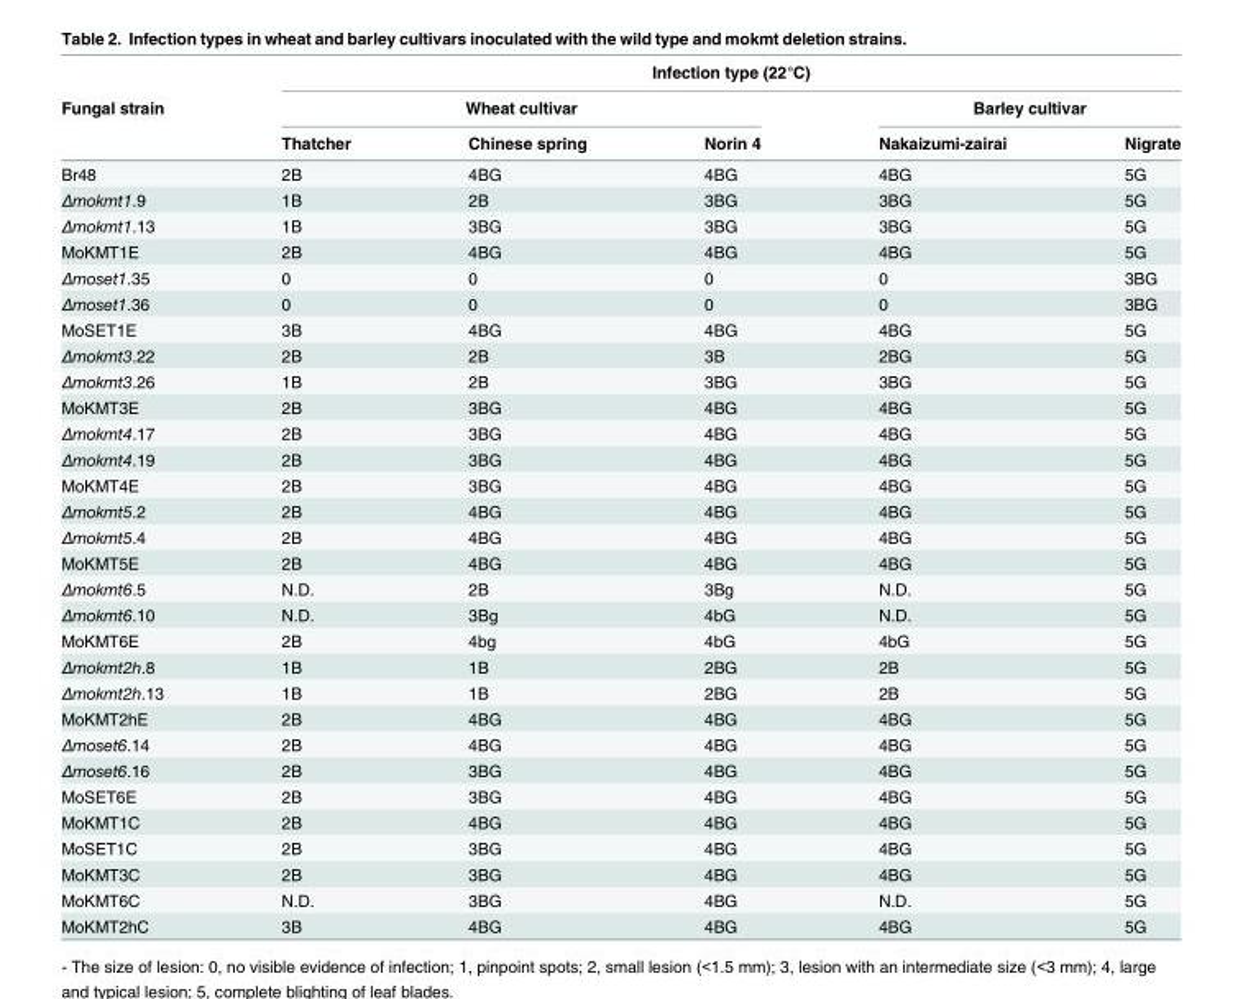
<table><thead><tr><td rowspan="3">Fungal strain</td><td colspan="5">Infection type (22°C)</td></tr><tr><td colspan="3">Wheat cultivar</td><td colspan="2">Barley cultivar</td></tr><tr><td>Thatcher</td><td>Chinese spring</td><td>Norin 4</td><td>Nakaizumi-zairai</td><td>Nigrate</td></tr></thead><tbody><tr><td>Br48</td><td>2B</td><td>4BG</td><td>4BG</td><td>4BG</td><td>5G</td></tr><tr><td>Δmokmt1.9</td><td>1B</td><td>2B</td><td>3BG</td><td>3BG</td><td>5G</td></tr><tr><td>Δmokmt1.13</td><td>1B</td><td>3BG</td><td>3BG</td><td>3BG</td><td>5G</td></tr><tr><td>MoKMT1E</td><td>2B</td><td>4BG</td><td>4BG</td><td>4BG</td><td>5G</td></tr><tr><td>Δmoset1.35</td><td>0</td><td>0</td><td>0</td><td>0</td><td>3BG</td></tr><tr><td>Δmoset1.36</td><td>0</td><td>0</td><td>0</td><td>0</td><td>3BG</td></tr><tr><td>MoSET1E</td><td>3B</td><td>4BG</td><td>4BG</td><td>4BG</td><td>5G</td></tr><tr><td>Δmokmt3.22</td><td>2B</td><td>2B</td><td>3B</td><td>2BG</td><td>5G</td></tr><tr><td>Δmokmt3.26</td><td>1B</td><td>2B</td><td>3BG</td><td>3BG</td><td>5G</td></tr><tr><td>MoKMT3E</td><td>2B</td><td>3BG</td><td>4BG</td><td>4BG</td><td>5G</td></tr><tr><td>Δmokmt4.17</td><td>2B</td><td>3BG</td><td>4BG</td><td>4BG</td><td>5G</td></tr><tr><td>Δmokmt4.19</td><td>2B</td><td>3BG</td><td>4BG</td><td>4BG</td><td>5G</td></tr><tr><td>MoKMT4E</td><td>2B</td><td>3BG</td><td>4BG</td><td>4BG</td><td>5G</td></tr><tr><td>Δmokmt5.2</td><td>2B</td><td>4BG</td><td>4BG</td><td>4BG</td><td>5G</td></tr><tr><td>Δmokmt5.4</td><td>2B</td><td>4BG</td><td>4BG</td><td>4BG</td><td>5G</td></tr><tr><td>MoKMT5E</td><td>2B</td><td>4BG</td><td>4BG</td><td>4BG</td><td>5G</td></tr><tr><td>Δmokmt6.5</td><td>N.D.</td><td>2B</td><td>3Bg</td><td>N.D.</td><td>5G</td></tr><tr><td>Δmokmt6.10</td><td>N.D.</td><td>3Bg</td><td>4bG</td><td>N.D.</td><td>5G</td></tr><tr><td>MoKMT6E</td><td>2B</td><td>4bg</td><td>4bG</td><td>4bG</td><td>5G</td></tr><tr><td>Δmokmt2h.8</td><td>1B</td><td>1B</td><td>2BG</td><td>2B</td><td>5G</td></tr><tr><td>Δmokmt2h.13</td><td>1B</td><td>1B</td><td>2BG</td><td>2B</td><td>5G</td></tr><tr><td>MoKMT2hE</td><td>2B</td><td>4BG</td><td>4BG</td><td>4BG</td><td>5G</td></tr><tr><td>Δmoset6.14</td><td>2B</td><td>4BG</td><td>4BG</td><td>4BG</td><td>5G</td></tr><tr><td>Δmoset6.16</td><td>2B</td><td>3BG</td><td>4BG</td><td>4BG</td><td>5G</td></tr><tr><td>MoSET6E</td><td>2B</td><td>3BG</td><td>4BG</td><td>4BG</td><td>5G</td></tr><tr><td>MoKMT1C</td><td>2B</td><td>4BG</td><td>4BG</td><td>4BG</td><td>5G</td></tr><tr><td>MoSET1C</td><td>2B</td><td>3BG</td><td>4BG</td><td>4BG</td><td>5G</td></tr><tr><td>MoKMT3C</td><td>2B</td><td>3BG</td><td>4BG</td><td>4BG</td><td>5G</td></tr><tr><td>MoKMT6C</td><td>N.D.</td><td>3BG</td><td>4BG</td><td>N.D.</td><td>5G</td></tr><tr><td>MoKMT2hC</td><td>3B</td><td>4BG</td><td>4BG</td><td>4BG</td><td>5G</td></tr></tbody></table>